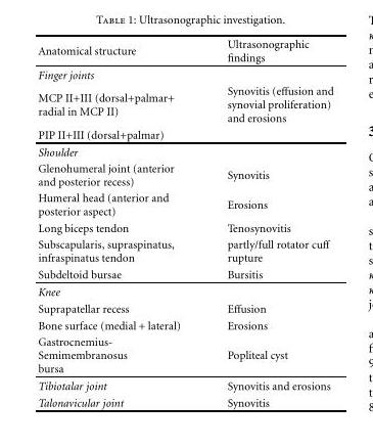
<table><thead><tr><td>Anatomical structure</td><td>Ultrasonographic findings</td></tr></thead><tbody><tr><td colspan="2">Finger joints</td></tr><tr><td>MCP II+III (dorsal+palmar+ radial in MCP II)</td><td>Synovitis (effusion and synovial proliferation) and erosions</td></tr><tr><td colspan="2">PIP II+III (dorsal+palmar)</td></tr><tr><td colspan="2">Shoulder</td></tr><tr><td>Glenohumeral joint (anterior and posterior recess)</td><td>Synovitis</td></tr><tr><td>Humeral head (anterior and posterior aspect)</td><td>Erosions</td></tr><tr><td>Long biceps tendon</td><td>Tenosynovitis</td></tr><tr><td>Subscapularis, supraspinatus, infraspinatus tendon</td><td>partly/full rotator cuff rupture</td></tr><tr><td>Subdeltoid bursae</td><td>Bursitis</td></tr><tr><td colspan="2">Knee</td></tr><tr><td>Suprapatellar recess</td><td>Effusion</td></tr><tr><td>Bone surface (medial + lateral)</td><td>Erosions</td></tr><tr><td>Gastrocnemius- Semimembranosus bursa</td><td>Popliteal cyst</td></tr><tr><td>Tibiotalar joint</td><td>Synovitis and erosions</td></tr><tr><td>Talonavicular joint</td><td>Synovitis</td></tr></tbody></table>